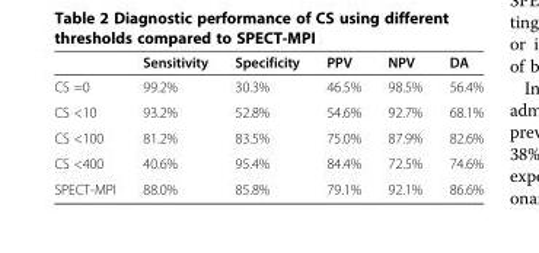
<table><thead><tr><td></td><td>Sensitivity</td><td>Specificity</td><td>PPV</td><td>NPV</td><td>DA</td></tr></thead><tbody><tr><td>CS =0</td><td>99.2%</td><td>30.3%</td><td>46.5%</td><td>98.5%</td><td>56.4%</td></tr><tr><td>CS &lt;10</td><td>93.2%</td><td>52.8%</td><td>54.6%</td><td>92.7%</td><td>68.1%</td></tr><tr><td>CS &lt;100</td><td>81.2%</td><td>83.5%</td><td>75.0%</td><td>87.9%</td><td>82.6%</td></tr><tr><td>CS &lt;400</td><td>40.6%</td><td>95.4%</td><td>84.4%</td><td>72.5%</td><td>74.6%</td></tr><tr><td>SPECT-MPI</td><td>88.0%</td><td>85.8%</td><td>79.1%</td><td>92.1%</td><td>86.6%</td></tr></tbody></table>